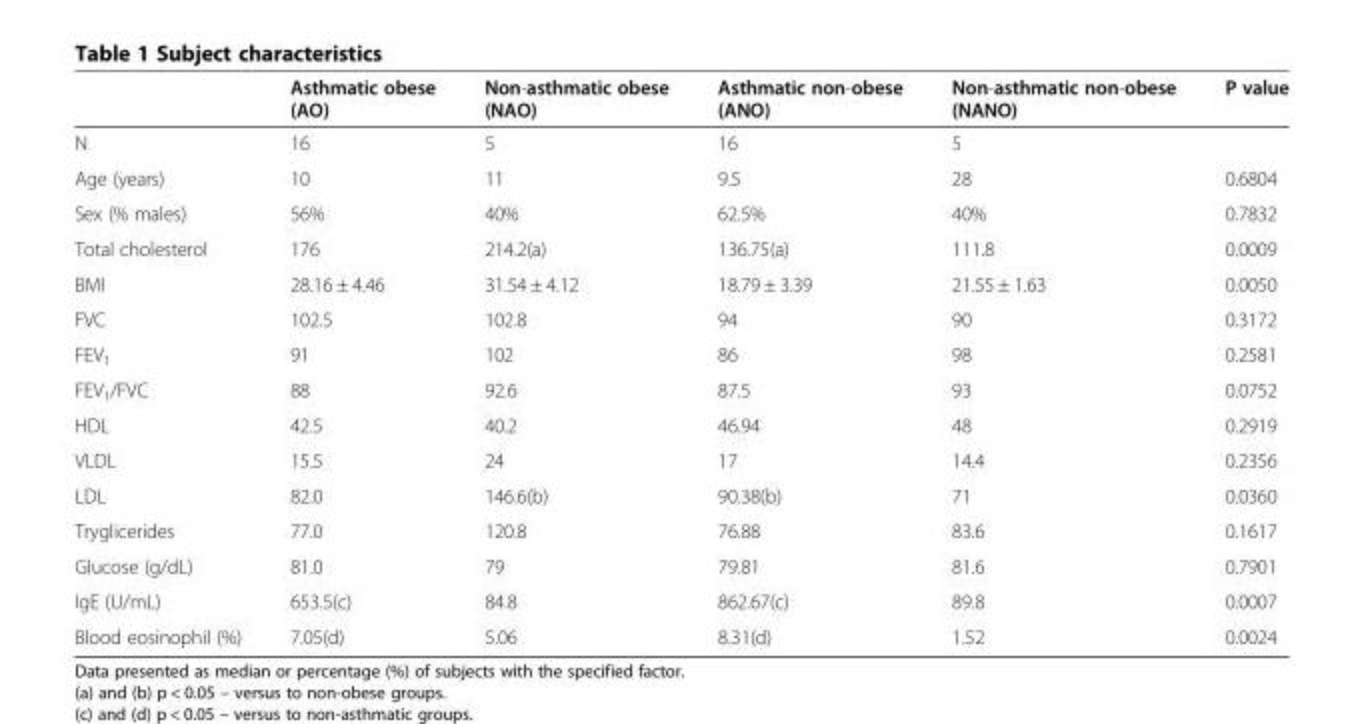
<table><thead><tr><td></td><td>Asthmatic obese (AO)</td><td>Non-asthmatic obese (NAO)</td><td>Asthmatic non-obese (ANO)</td><td>Non-asthmatic non-obese (NANO)</td><td>P value</td></tr></thead><tbody><tr><td>N</td><td>16</td><td>5</td><td>16</td><td>5</td><td></td></tr><tr><td>Age (years)</td><td>10</td><td>11</td><td>9.5</td><td>28</td><td>0.6804</td></tr><tr><td>Sex (% males)</td><td>56%</td><td>40%</td><td>62.5%</td><td>40%</td><td>0.7832</td></tr><tr><td>Total cholesterol</td><td>176</td><td>214.2(a)</td><td>136.75(a)</td><td>111.8</td><td>0.0009</td></tr><tr><td>BMI</td><td>28.16 ± 4.46</td><td>31.54 ± 4.12</td><td>18.79 ± 3.39</td><td>21.55 ± 1.63</td><td>0.0050</td></tr><tr><td>FVC</td><td>102.5</td><td>102.8</td><td>94</td><td>90</td><td>0.3172</td></tr><tr><td>FEV<sub>1</sub></td><td>91</td><td>102</td><td>86</td><td>98</td><td>0.2581</td></tr><tr><td>FEV<sub>1</sub>/FVC</td><td>88</td><td>92.6</td><td>87.5</td><td>93</td><td>0.0752</td></tr><tr><td>HDL</td><td>42.5</td><td>40.2</td><td>46.94</td><td>48</td><td>0.2919</td></tr><tr><td>VLDL</td><td>15.5</td><td>24</td><td>17</td><td>14.4</td><td>0.2356</td></tr><tr><td>LDL</td><td>82.0</td><td>146.6(b)</td><td>90.38(b)</td><td>71</td><td>0.0360</td></tr><tr><td>Tryglicerides</td><td>77.0</td><td>120.8</td><td>76.88</td><td>83.6</td><td>0.1617</td></tr><tr><td>Glucose (g/dL)</td><td>81.0</td><td>79</td><td>79.81</td><td>81.6</td><td>0.7901</td></tr><tr><td>IgE (U/mL)</td><td>653.5(c)</td><td>84.8</td><td>862.67(c)</td><td>89.8</td><td>0.0007</td></tr><tr><td>Blood eosinophil (%)</td><td>7.05(d)</td><td>5.06</td><td>8.31(d)</td><td>1.52</td><td>0.0024</td></tr></tbody></table>